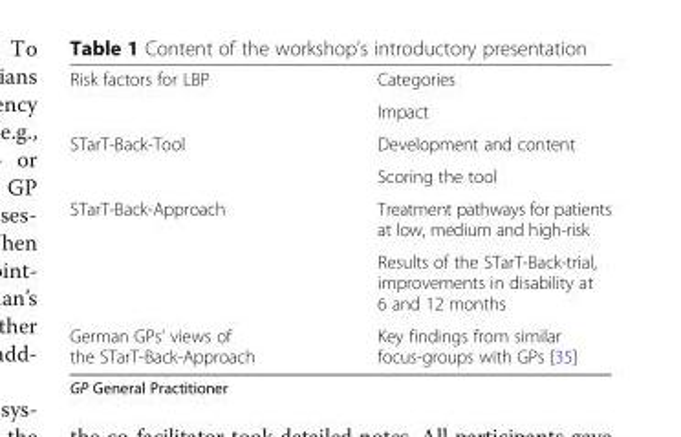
<table><tbody><tr><td rowspan="2">Risk factors for LBP</td><td>Categories</td></tr><tr><td>Impact</td></tr><tr><td rowspan="2">STarT-Back-Tool</td><td>Development and content</td></tr><tr><td>Scoring the tool</td></tr><tr><td rowspan="2">STarT-Back-Approach</td><td>Treatment pathways for patients at low, medium and high-risk</td></tr><tr><td>Results of the STarT-Back-trial, improvements in disability at 6 and 12 months</td></tr><tr><td>German GPs’ views of the STarT-Back-Approach</td><td>Key findings from similar focus-groups with GPs [35]</td></tr></tbody></table>